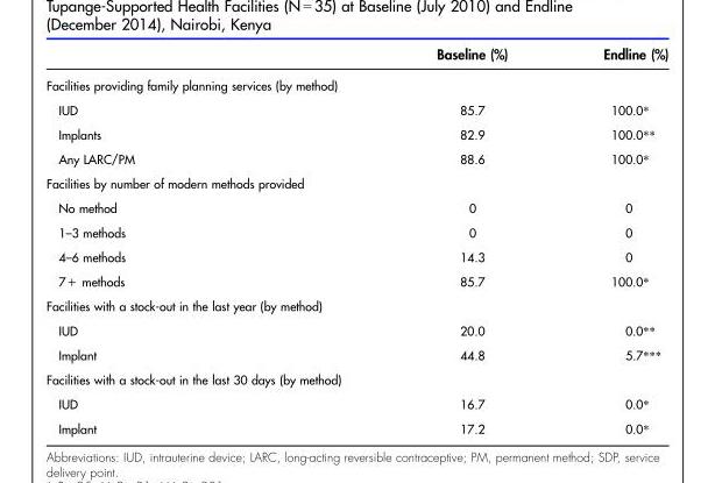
<table><thead><tr><td></td><td>Baseline (%)</td><td>Endline (%)</td></tr></thead><tbody><tr><td colspan="3">Facilities providing family planning services (by method)</td></tr><tr><td>IUD</td><td>85.7</td><td>100.0*</td></tr><tr><td>Implants</td><td>82.9</td><td>100.0**</td></tr><tr><td>Any LARC/PM</td><td>88.6</td><td>100.0*</td></tr><tr><td colspan="3">Facilities by number of modern methods provided</td></tr><tr><td>No method</td><td>0</td><td>0</td></tr><tr><td>1–3 methods</td><td>0</td><td>0</td></tr><tr><td>4–6 methods</td><td>14.3</td><td>0</td></tr><tr><td>7+ methods</td><td>85.7</td><td>100.0*</td></tr><tr><td colspan="3">Facilities with a stock-out in the last year (by method)</td></tr><tr><td>IUD</td><td>20.0</td><td>0.0**</td></tr><tr><td>Implant</td><td>44.8</td><td>5.7***</td></tr><tr><td colspan="3">Facilities with a stock-out in the last 30 days (by method)</td></tr><tr><td>IUD</td><td>16.7</td><td>0.0*</td></tr><tr><td>Implant</td><td>17.2</td><td>0.0*</td></tr></tbody></table>